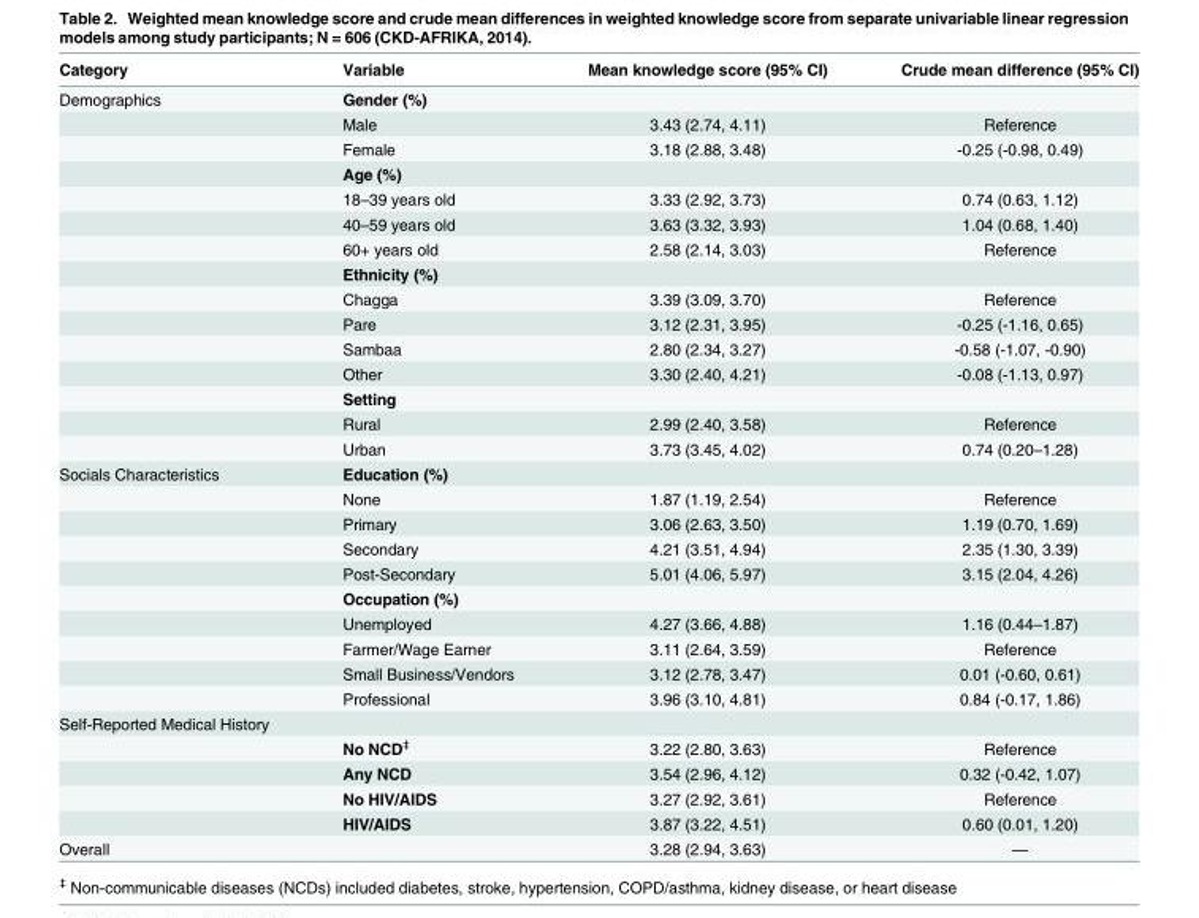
<table><thead><tr><td>Category</td><td>Variable</td><td>Mean knowledge score (95% CI)</td><td>Crude mean difference (95% CI)</td></tr></thead><tbody><tr><td rowspan="15">Demographics</td><td>Gender (%)</td><td></td><td></td></tr><tr><td>Male</td><td>3.43 (2.74, 4.11)</td><td>Reference</td></tr><tr><td>Female</td><td>3.18 (2.88, 3.48)</td><td>-0.25 (-0.98, 0.49)</td></tr><tr><td>Age (%)</td><td></td><td></td></tr><tr><td>18–39 years old</td><td>3.33 (2.92, 3.73)</td><td>0.74 (0.63, 1.12)</td></tr><tr><td>40–59 years old</td><td>3.63 (3.32, 3.93)</td><td>1.04 (0.68, 1.40)</td></tr><tr><td>60+ years old</td><td>2.58 (2.14, 3.03)</td><td>Reference</td></tr><tr><td>Ethnicity (%)</td><td></td><td></td></tr><tr><td>Chagga</td><td>3.39 (3.09, 3.70)</td><td>Reference</td></tr><tr><td>Pare</td><td>3.12 (2.31, 3.95)</td><td>-0.25 (-1.16, 0.65)</td></tr><tr><td>Sambaa</td><td>2.80 (2.34, 3.27)</td><td>-0.58 (-1.07, -0.90)</td></tr><tr><td>Other</td><td>3.30 (2.40, 4.21)</td><td>-0.08 (-1.13, 0.97)</td></tr><tr><td>Setting</td><td></td><td></td></tr><tr><td>Rural</td><td>2.99 (2.40, 3.58)</td><td>Reference</td></tr><tr><td>Urban</td><td>3.73 (3.45, 4.02)</td><td>0.74 (0.20–1.28)</td></tr><tr><td rowspan="10">Socials Characteristics</td><td>Education (%)</td><td></td><td></td></tr><tr><td>None</td><td>1.87 (1.19, 2.54)</td><td>Reference</td></tr><tr><td>Primary</td><td>3.06 (2.63, 3.50)</td><td>1.19 (0.70, 1.69)</td></tr><tr><td>Secondary</td><td>4.21 (3.51, 4.94)</td><td>2.35 (1.30, 3.39)</td></tr><tr><td>Post-Secondary</td><td>5.01 (4.06, 5.97)</td><td>3.15 (2.04, 4.26)</td></tr><tr><td>Occupation (%)</td><td></td><td></td></tr><tr><td>Unemployed</td><td>4.27 (3.66, 4.88)</td><td>1.16 (0.44–1.87)</td></tr><tr><td>Farmer/Wage Earner</td><td>3.11 (2.64, 3.59)</td><td>Reference</td></tr><tr><td>Small Business/Vendors</td><td>3.12 (2.78, 3.47)</td><td>0.01 (-0.60, 0.61)</td></tr><tr><td>Professional</td><td>3.96 (3.10, 4.81)</td><td>0.84 (-0.17, 1.86)</td></tr><tr><td colspan="4">Self-Reported Medical History</td></tr><tr><td></td><td>No NCD<sup>‡</sup></td><td>3.22 (2.80, 3.63)</td><td>Reference</td></tr><tr><td></td><td>Any NCD</td><td>3.54 (2.96, 4.12)</td><td>0.32 (-0.42, 1.07)</td></tr><tr><td></td><td>No HIV/AIDS</td><td>3.27 (2.92, 3.61)</td><td>Reference</td></tr><tr><td></td><td>HIV/AIDS</td><td>3.87 (3.22, 4.51)</td><td>0.60 (0.01, 1.20)</td></tr><tr><td>Overall</td><td></td><td>3.28 (2.94, 3.63)</td><td>—</td></tr></tbody></table>